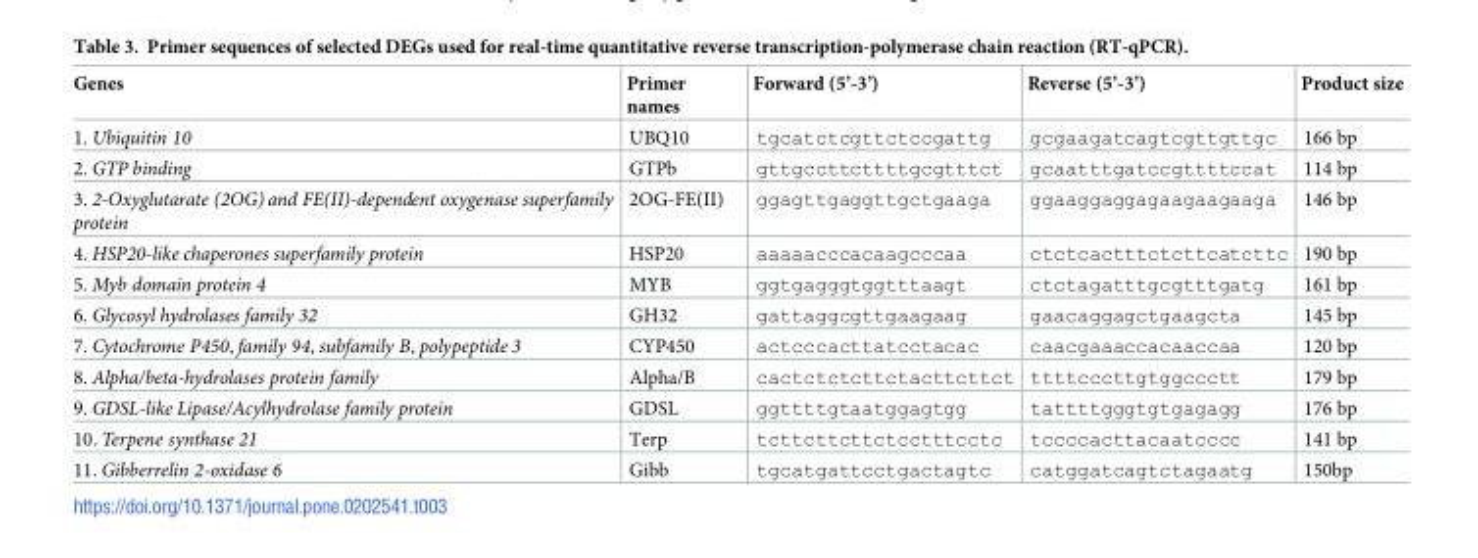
<table><thead><tr><td>Genes</td><td>Primer names</td><td>Forward (5’-3’)</td><td>Reverse (5’-3’)</td><td>Product size</td></tr></thead><tbody><tr><td>1. Ubiquitin 10</td><td>UBQ10</td><td>tgcatctcgttctccgattg</td><td>gcgaagatcagtcgttgttgc</td><td>166 bp</td></tr><tr><td>2. GTP binding</td><td>GTPb</td><td>gttgccttcttttgcgtttct</td><td>gcaatttgatccgttttccat</td><td>114 bp</td></tr><tr><td>3. 2-Oxyglutarate (2OG) and FE(II)-dependent oxygenase superfamily protein</td><td>2OG-FE(II)</td><td>ggagttgaggttgctgaaga</td><td>ggaaggaggagaagaagaaga</td><td>146 bp</td></tr><tr><td>4. HSP20-like chaperones superfamily protein</td><td>HSP20</td><td>aaaaacccacaagcccaa</td><td>ctctcactttctcttcatcttc</td><td>190 bp</td></tr><tr><td>5. Myb domain protein 4</td><td>MYB</td><td>ggtgagggtggtttaagt</td><td>ctctagatttgcgtttgatg</td><td>161 bp</td></tr><tr><td>6. Glycosyl hydrolases family 32</td><td>GH32</td><td>gattaggcgttgaagaag</td><td>gaacaggagctgaagcta</td><td>145 bp</td></tr><tr><td>7. Cytochrome P450, family 94, subfamily B, polypeptide 3</td><td>CYP450</td><td>actcccacttatcctacac</td><td>caacgaaaccacaaccaa</td><td>120 bp</td></tr><tr><td>8. Alpha/beta-hydrolases protein family</td><td>Alpha/B</td><td>cactctctcttctacttcttct</td><td>ttttcccttgtggccctt</td><td>179 bp</td></tr><tr><td>9. GDSL-like Lipase/Acylhydrolase family protein</td><td>GDSL</td><td>ggttttgtaatggagtgg</td><td>tattttgggtgtgagagg</td><td>176 bp</td></tr><tr><td>10. Terpene synthase 21</td><td>Terp</td><td>tcttcttcttctcctttcctc</td><td>tccccacttacaatcccc</td><td>141 bp</td></tr><tr><td>11. Gibberrelin 2-oxidase 6</td><td>Gibb</td><td>tgcatgattcctgactagtc</td><td>catggatcagtctagaatg</td><td>150bp</td></tr></tbody></table>